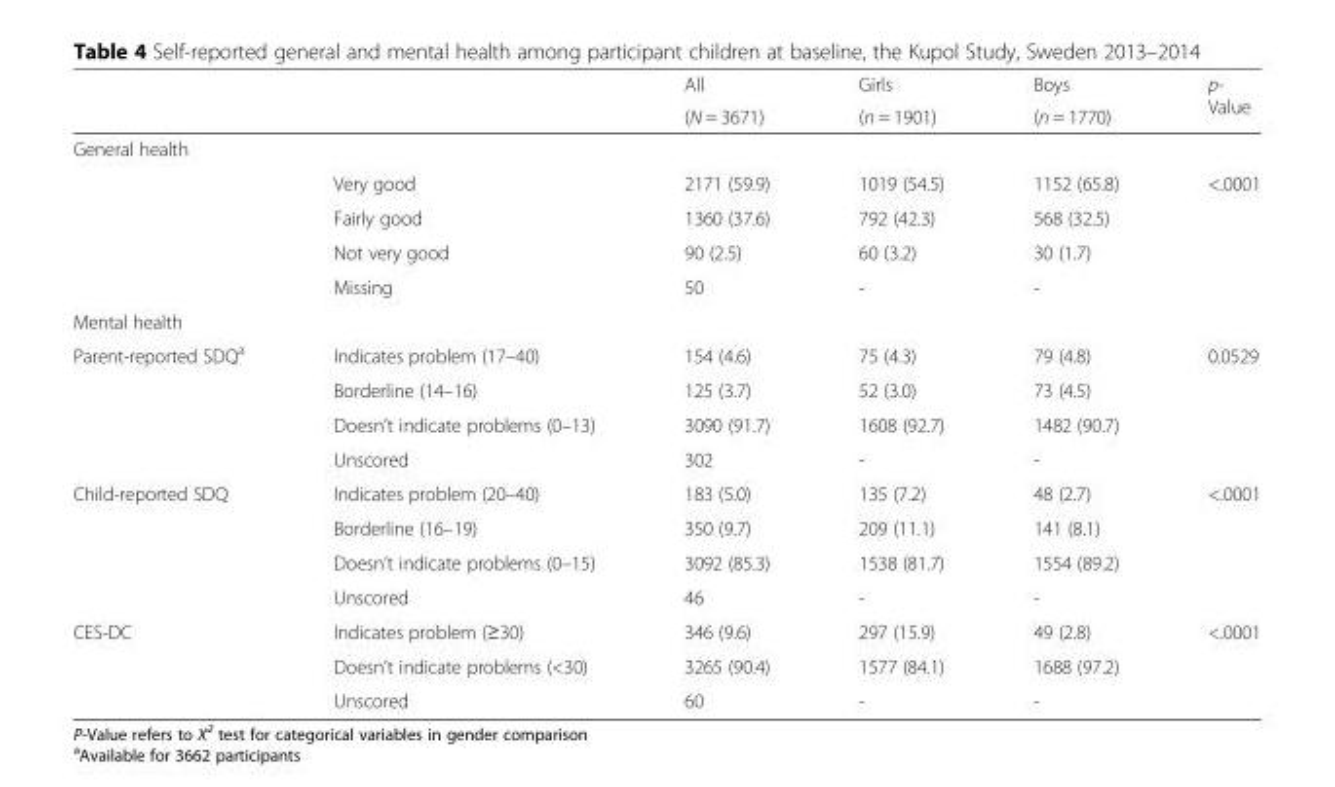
<table><thead><tr><td rowspan="2"></td><td rowspan="2"></td><td rowspan="2">All (N = 3671)</td><td rowspan="2">Girls (n = 1901)</td><td rowspan="2">Boys (n = 1770)</td><td rowspan="2">p- Value</td></tr><tr></tr></thead><tbody><tr><td colspan="6">General health</td></tr><tr><td></td><td>Very good</td><td>2171 (59.9)</td><td>1019 (54.5)</td><td>1152 (65.8)</td><td>&lt;.0001</td></tr><tr><td></td><td>Fairly good</td><td>1360 (37.6)</td><td>792 (42.3)</td><td>568 (32.5)</td><td></td></tr><tr><td></td><td>Not very good</td><td>90 (2.5)</td><td>60 (3.2)</td><td>30 (1.7)</td><td></td></tr><tr><td></td><td>Missing</td><td>50</td><td>-</td><td>-</td><td></td></tr><tr><td colspan="6">Mental health</td></tr><tr><td rowspan="4">Parent-reported SDQ<sup>a</sup></td><td>Indicates problem (17–40)</td><td>154 (4.6)</td><td>75 (4.3)</td><td>79 (4.8)</td><td>0.0529</td></tr><tr><td>Borderline (14–16)</td><td>125 (3.7)</td><td>52 (3.0)</td><td>73 (4.5)</td><td></td></tr><tr><td>Doesn’t indicate problems (0–13)</td><td>3090 (91.7)</td><td>1608 (92.7)</td><td>1482 (90.7)</td><td></td></tr><tr><td>Unscored</td><td>302</td><td>-</td><td>-</td><td></td></tr><tr><td rowspan="4">Child-reported SDQ</td><td>Indicates problem (20–40)</td><td>183 (5.0)</td><td>135 (7.2)</td><td>48 (2.7)</td><td>&lt;.0001</td></tr><tr><td>Borderline (16–19)</td><td>350 (9.7)</td><td>209 (11.1)</td><td>141 (8.1)</td><td></td></tr><tr><td>Doesn’t indicate problems (0–15)</td><td>3092 (85.3)</td><td>1538 (81.7)</td><td>1554 (89.2)</td><td></td></tr><tr><td>Unscored</td><td>46</td><td>-</td><td>-</td><td></td></tr><tr><td rowspan="3">CES-DC</td><td>Indicates problem (≥30)</td><td>346 (9.6)</td><td>297 (15.9)</td><td>49 (2.8)</td><td>&lt;.0001</td></tr><tr><td>Doesn’t indicate problems (&lt;30)</td><td>3265 (90.4)</td><td>1577 (84.1)</td><td>1688 (97.2)</td><td></td></tr><tr><td>Unscored</td><td>60</td><td>-</td><td>-</td><td></td></tr></tbody></table>